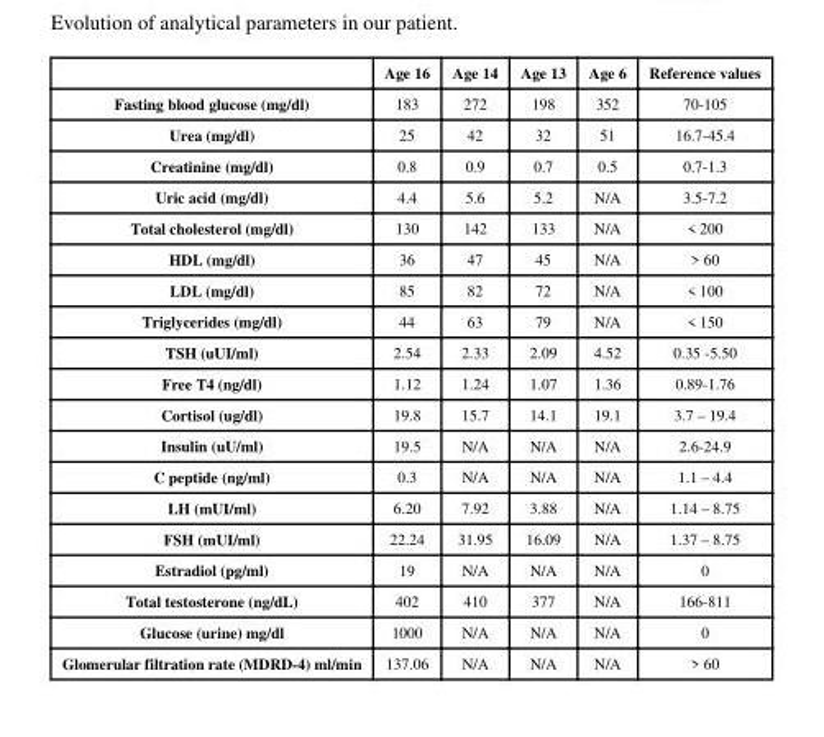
<table><thead><tr><td></td><td>Age 16</td><td>Age 14</td><td>Age 13</td><td>Age 6</td><td>Reference values</td></tr></thead><tbody><tr><td>Fasting blood glucose (mg/dl)</td><td>183</td><td>272</td><td>198</td><td>352</td><td>70-105</td></tr><tr><td>Urea (mg/dl)</td><td>25</td><td>42</td><td>32</td><td>51</td><td>16.7-45.4</td></tr><tr><td>Creatinine (mg/dl)</td><td>0.8</td><td>0.9</td><td>0.7</td><td>0.5</td><td>0.7-1.3</td></tr><tr><td>Uric acid (mg/dl)</td><td>4.4</td><td>5.6</td><td>5.2</td><td>N/A</td><td>3.5-7.2</td></tr><tr><td>Total cholesterol (mg/dl)</td><td>130</td><td>142</td><td>133</td><td>N/A</td><td>&lt; 200</td></tr><tr><td>HDL (mg/dl)</td><td>36</td><td>47</td><td>45</td><td>N/A</td><td>&gt; 60</td></tr><tr><td>LDL (mg/dl)</td><td>85</td><td>82</td><td>72</td><td>N/A</td><td>&lt; 100</td></tr><tr><td>Triglycerides (mg/dl)</td><td>44</td><td>63</td><td>79</td><td>N/A</td><td>&lt; 150</td></tr><tr><td>TSH (uUI/ml)</td><td>2.54</td><td>2.33</td><td>2.09</td><td>4.52</td><td>0.35 -5.50</td></tr><tr><td>Free T4 (ng/dl)</td><td>1.12</td><td>1.24</td><td>1.07</td><td>1.36</td><td>0.89-1.76</td></tr><tr><td>Cortisol (ug/dl)</td><td>19.8</td><td>15.7</td><td>14.1</td><td>19.1</td><td>3.7 – 19.4</td></tr><tr><td>Insulin (uU/ml)</td><td>19.5</td><td>N/A</td><td>N/A</td><td>N/A</td><td>2.6-24.9</td></tr><tr><td>C peptide (ng/ml)</td><td>0.3</td><td>N/A</td><td>N/A</td><td>N/A</td><td>1.1 – 4.4</td></tr><tr><td>LH (mUI/ml)</td><td>6.20</td><td>7.92</td><td>3.88</td><td>N/A</td><td>1.14 – 8.75</td></tr><tr><td>FSH (mUI/ml)</td><td>22.24</td><td>31.95</td><td>16.09</td><td>N/A</td><td>1.37 – 8.75</td></tr><tr><td>Estradiol (pg/ml)</td><td>19</td><td>N/A</td><td>N/A</td><td>N/A</td><td>0</td></tr><tr><td>Total testosterone (ng/dL)</td><td>402</td><td>410</td><td>377</td><td>N/A</td><td>166-811</td></tr><tr><td>Glucose (urine) mg/dl</td><td>1000</td><td>N/A</td><td>N/A</td><td>N/A</td><td>0</td></tr><tr><td>Glomerular filtration rate (MDRD-4) ml/min</td><td>137.06</td><td>N/A</td><td>N/A</td><td>N/A</td><td>&gt; 60</td></tr></tbody></table>